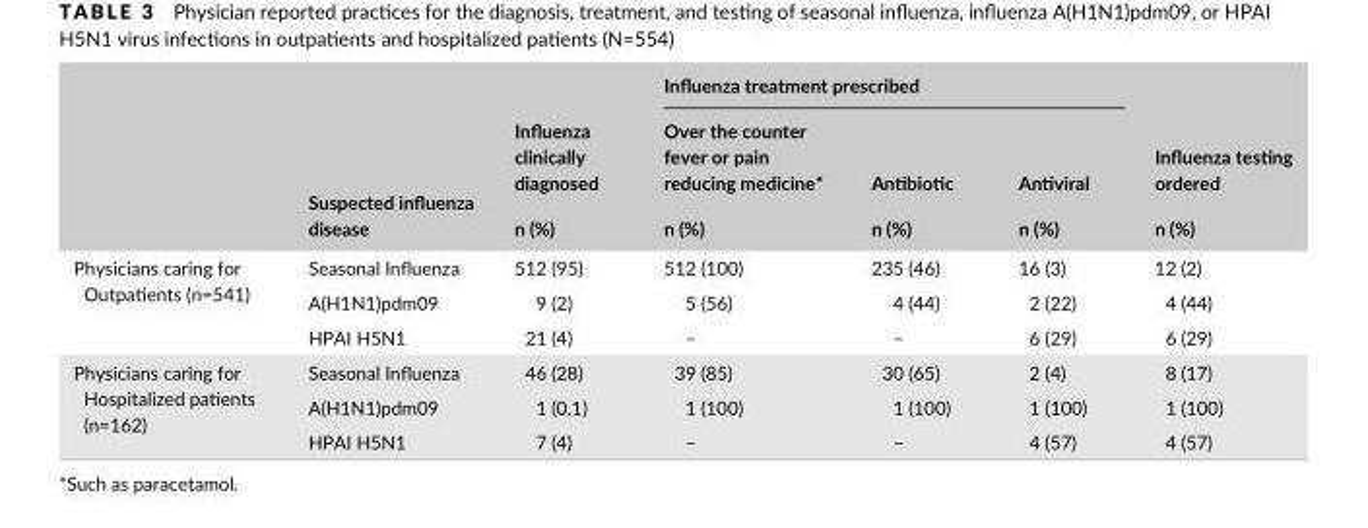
<table><thead><tr><td rowspan="3"></td><td rowspan="3">Suspected influenza disease</td><td rowspan="3">Influenza clinically diagnosed n (%)</td><td colspan="3">Influenza treatment prescribed</td><td rowspan="3">Influenza testing ordered n (%)</td></tr><tr><td rowspan="2">Over the counter fever or pain reducing medicine* n (%)</td><td rowspan="2">Antibiotic n (%)</td><td rowspan="2">Antiviral n (%)</td></tr><tr></tr></thead><tbody><tr><td rowspan="3">Physicians caring for Outpatients (n=541)</td><td>Seasonal Influenza</td><td>512 (95)</td><td>512 (100)</td><td>235 (46)</td><td>16 (3)</td><td>12 (2)</td></tr><tr><td>A(H1N1)pdm09</td><td>9 (2)</td><td>5 (56)</td><td>4 (44)</td><td>2 (22)</td><td>4 (44)</td></tr><tr><td>HPAI H5N1</td><td>21 (4)</td><td>–</td><td>–</td><td>6 (29)</td><td>6 (29)</td></tr><tr><td rowspan="3">Physicians caring for Hospitalized patients (n=162)</td><td>Seasonal Influenza</td><td>46 (28)</td><td>39 (85)</td><td>30 (65)</td><td>2 (4)</td><td>8 (17)</td></tr><tr><td>A(H1N1)pdm09</td><td>1 (0.1)</td><td>1 (100)</td><td>1 (100)</td><td>1 (100)</td><td>1 (100)</td></tr><tr><td>HPAI H5N1</td><td>7 (4)</td><td>–</td><td>–</td><td>4 (57)</td><td>4 (57)</td></tr></tbody></table>